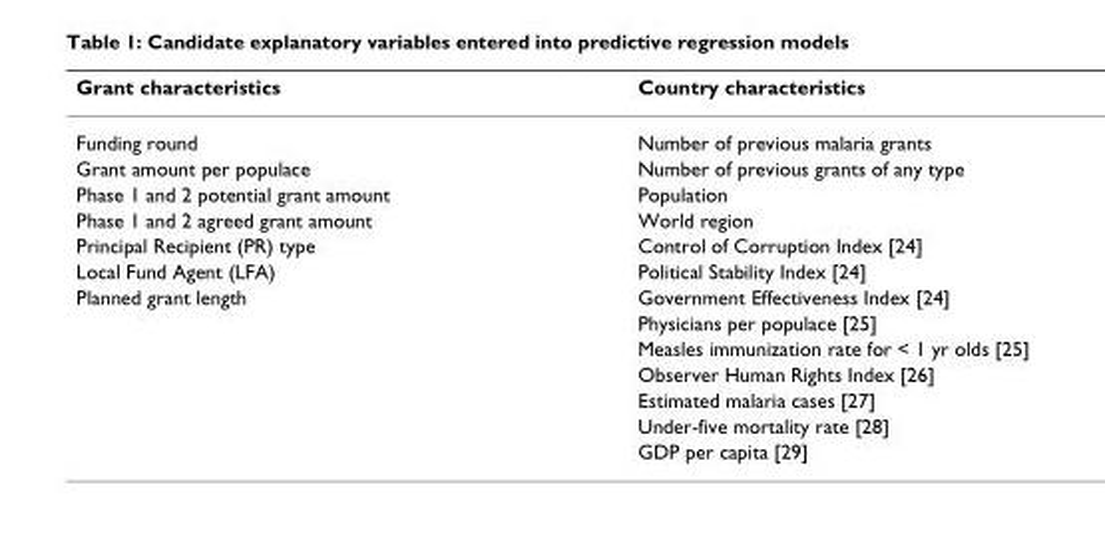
<table><thead><tr><td>Grant characteristics</td><td>Country characteristics</td></tr></thead><tbody><tr><td>Funding round</td><td>Number of previous malaria grants</td></tr><tr><td>Grant amount per populace</td><td>Number of previous grants of any type</td></tr><tr><td>Phase 1 and 2 potential grant amount</td><td>Population</td></tr><tr><td>Phase 1 and 2 agreed grant amount</td><td>World region</td></tr><tr><td>Principal Recipient (PR) type</td><td>Control of Corruption Index [24]</td></tr><tr><td>Local Fund Agent (LFA)</td><td>Political Stability Index [24]</td></tr><tr><td rowspan="7">Planned grant length</td><td>Government Effectiveness Index [24]</td></tr><tr><td>Physicians per populace [25]</td></tr><tr><td>Measles immunization rate for &lt; 1 yr olds [25]</td></tr><tr><td>Observer Human Rights Index [26]</td></tr><tr><td>Estimated malaria cases [27]</td></tr><tr><td>Under-five mortality rate [28]</td></tr><tr><td>GDP per capita [29]</td></tr></tbody></table>